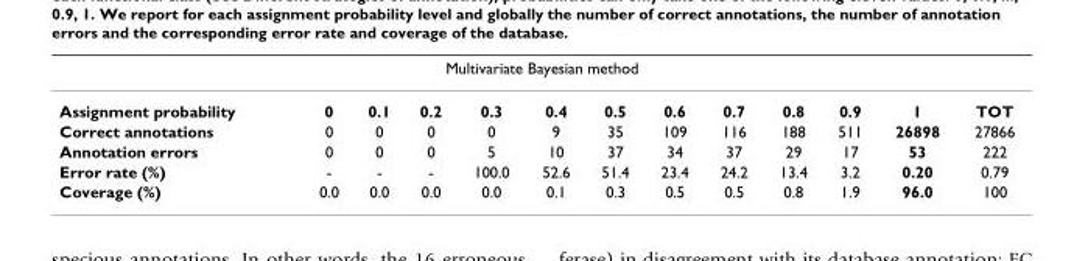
<table><thead><tr><td colspan="13">Multivariate Bayesian method</td></tr><tr><td>Assignment probability</td><td>0</td><td>0.1</td><td>0.2</td><td>0.3</td><td>0.4</td><td>0.5</td><td>0.6</td><td>0.7</td><td>0.8</td><td>0.9</td><td>1</td><td>TOT</td></tr></thead><tbody><tr><td>Correct annotations</td><td>0</td><td>0</td><td>0</td><td>0</td><td>9</td><td>35</td><td>109</td><td>116</td><td>188</td><td>511</td><td>26898</td><td>27866</td></tr><tr><td>Annotation errors</td><td>0</td><td>0</td><td>0</td><td>5</td><td>10</td><td>37</td><td>34</td><td>37</td><td>29</td><td>17</td><td>53</td><td>222</td></tr><tr><td>Error rate (%)</td><td>-</td><td>-</td><td>-</td><td>100.0</td><td>52.6</td><td>51.4</td><td>23.4</td><td>24.2</td><td>13.4</td><td>3.2</td><td>0.20</td><td>0.79</td></tr><tr><td>Coverage (%)</td><td>0.0</td><td>0.0</td><td>0.0</td><td>0.0</td><td>0.1</td><td>0.3</td><td>0.5</td><td>0.5</td><td>0.8</td><td>1.9</td><td>96.0</td><td>100</td></tr></tbody></table>